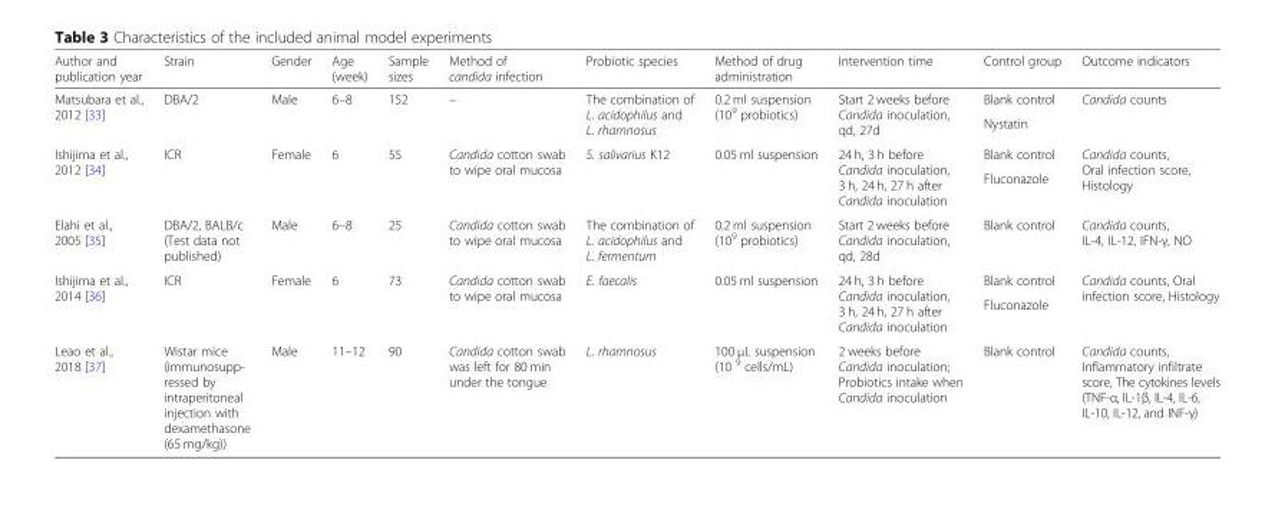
<table><thead><tr><td>Author and publication year</td><td>Strain</td><td>Gender</td><td>Age (week)</td><td>Sample sizes</td><td>Method of candida infection</td><td>Probiotic species</td><td>Method of drug administration</td><td>Intervention time</td><td>Control group</td><td>Outcome indicators</td></tr></thead><tbody><tr><td rowspan="2">Matsubara et al., 2012 [33]</td><td rowspan="2">DBA/2</td><td rowspan="2">Male</td><td rowspan="2">6–8</td><td rowspan="2">152</td><td rowspan="2">–</td><td rowspan="2">The combination of L. acidophilus and L. rhamnosus</td><td rowspan="2">0.2 ml suspension (10<sup>9</sup> probiotics)</td><td rowspan="2">Start 2 weeks before Candida inoculation, qd, 27d</td><td>Blank control</td><td rowspan="2">Candida counts</td></tr><tr><td>Nystatin</td></tr><tr><td rowspan="2">Ishijima et al., 2012 [34]</td><td rowspan="2">ICR</td><td rowspan="2">Female</td><td rowspan="2">6</td><td rowspan="2">55</td><td rowspan="2">Candida cotton swab to wipe oral mucosa</td><td rowspan="2">S. salivarius K12</td><td rowspan="2">0.05 ml suspension</td><td rowspan="2">24 h, 3 h before Candida inoculation, 3 h, 24 h, 27 h after Candida inoculation</td><td>Blank control</td><td rowspan="2">Candida counts, Oral infection score, Histology</td></tr><tr><td>Fluconazole</td></tr><tr><td>Elahi et al., 2005 [35]</td><td>DBA/2, BALB/c (Test data not published)</td><td>Male</td><td>6–8</td><td>25</td><td>Candida cotton swab to wipe oral mucosa</td><td>The combination of L. acidophilus and L. fermentum</td><td>0.2 ml suspension (10<sup>9</sup> probiotics)</td><td>Start 2 weeks before Candida inoculation, qd, 28d</td><td>Blank control</td><td>Candida counts, IL-4, IL-12, IFN-γ, NO</td></tr><tr><td rowspan="2">Ishijima et al., 2014 [36]</td><td rowspan="2">ICR</td><td rowspan="2">Female</td><td rowspan="2">6</td><td rowspan="2">73</td><td rowspan="2">Candida cotton swab to wipe oral mucosa</td><td rowspan="2">E. faecalis</td><td rowspan="2">0.05 ml suspension</td><td rowspan="2">24 h, 3 h before Candida inoculation, 3 h, 24 h, 27 h after Candida inoculation</td><td>Blank control</td><td rowspan="2">Candida counts, Oral infection score, Histology</td></tr><tr><td>Fluconazole</td></tr><tr><td>Leao et al., 2018 [37]</td><td>Wistar mice (immunosupp- ressed by intraperitoneal injection with dexamethasone (65 mg/kg))</td><td>Male</td><td>11–12</td><td>90</td><td>Candida cotton swab was left for 80 min under the tongue</td><td>L. rhamnosus</td><td>100 μL suspension (10 <sup>9</sup> cells/mL)</td><td>2 weeks before Candida inoculation; Probiotics intake when Candida inoculation</td><td>Blank control</td><td>Candida counts, Inflammatory infiltrate score, The cytokines levels (TNF-α, IL-1β, IL-4, IL-6, IL-10, IL-12, and INF-γ)</td></tr></tbody></table>